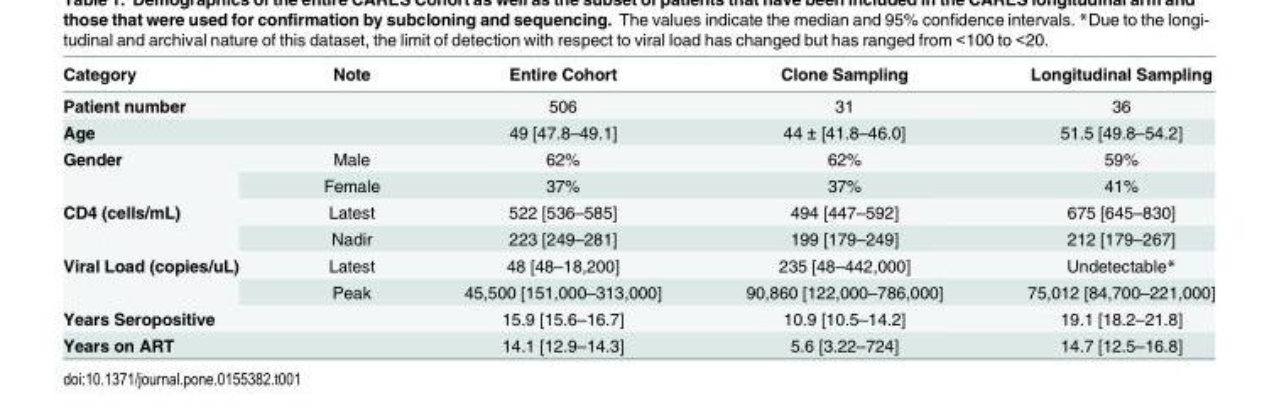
<table><thead><tr><td>Category</td><td>Note</td><td>Entire Cohort</td><td>Clone Sampling</td><td>Longitudinal Sampling</td></tr></thead><tbody><tr><td>Patient number</td><td></td><td>506</td><td>31</td><td>36</td></tr><tr><td>Age</td><td></td><td>49 [47.8–49.1]</td><td>44 ± [41.8–46.0]</td><td>51.5 [49.8–54.2]</td></tr><tr><td rowspan="2">Gender</td><td>Male</td><td>62%</td><td>62%</td><td>59%</td></tr><tr><td>Female</td><td>37%</td><td>37%</td><td>41%</td></tr><tr><td rowspan="2">CD4 (cells/mL)</td><td>Latest</td><td>522 [536–585]</td><td>494 [447–592]</td><td>675 [645–830]</td></tr><tr><td>Nadir</td><td>223 [249–281]</td><td>199 [179–249]</td><td>212 [179–267]</td></tr><tr><td rowspan="2">Viral Load (copies/uL)</td><td>Latest</td><td>48 [48–18,200]</td><td>235 [48–442,000]</td><td>Undetectable*</td></tr><tr><td>Peak</td><td>45,500 [151,000–313,000]</td><td>90,860 [122,000–786,000]</td><td>75,012 [84,700–221,000]</td></tr><tr><td>Years Seropositive</td><td></td><td>15.9 [15.6–16.7]</td><td>10.9 [10.5–14.2]</td><td>19.1 [18.2–21.8]</td></tr><tr><td>Years on ART</td><td></td><td>14.1 [12.9–14.3]</td><td>5.6 [3.22–724]</td><td>14.7 [12.5–16.8]</td></tr></tbody></table>